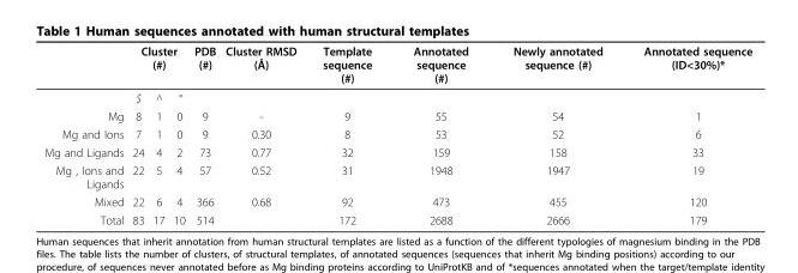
<table><thead><tr><td rowspan="2"></td><td colspan="3">Cluster (#)</td><td rowspan="2">PDB (#)</td><td rowspan="2">Cluster RMSD (Å)</td><td rowspan="2">Template sequence (#)</td><td rowspan="2">Annotated sequence (#)</td><td rowspan="2">Newly annotated sequence (#)</td><td rowspan="2">Annotated sequence (ID&lt;30%)*</td></tr><tr><td>$</td><td>^</td><td>°</td></tr></thead><tbody><tr><td>Mg</td><td>8</td><td>1</td><td>0</td><td>9</td><td>-</td><td>9</td><td>55</td><td>54</td><td>1</td></tr><tr><td>Mg and Ions</td><td>7</td><td>1</td><td>0</td><td>9</td><td>0.30</td><td>8</td><td>53</td><td>52</td><td>6</td></tr><tr><td>Mg and Ligands</td><td>24</td><td>4</td><td>2</td><td>73</td><td>0.77</td><td>32</td><td>159</td><td>158</td><td>33</td></tr><tr><td>Mg , Ions and Ligands</td><td>22</td><td>5</td><td>4</td><td>57</td><td>0.52</td><td>31</td><td>1948</td><td>1947</td><td>19</td></tr><tr><td>Mixed</td><td>22</td><td>6</td><td>4</td><td>366</td><td>0.68</td><td>92</td><td>473</td><td>455</td><td>120</td></tr><tr><td>Total</td><td>83</td><td>17</td><td>10</td><td>514</td><td></td><td>172</td><td>2688</td><td>2666</td><td>179</td></tr></tbody></table>